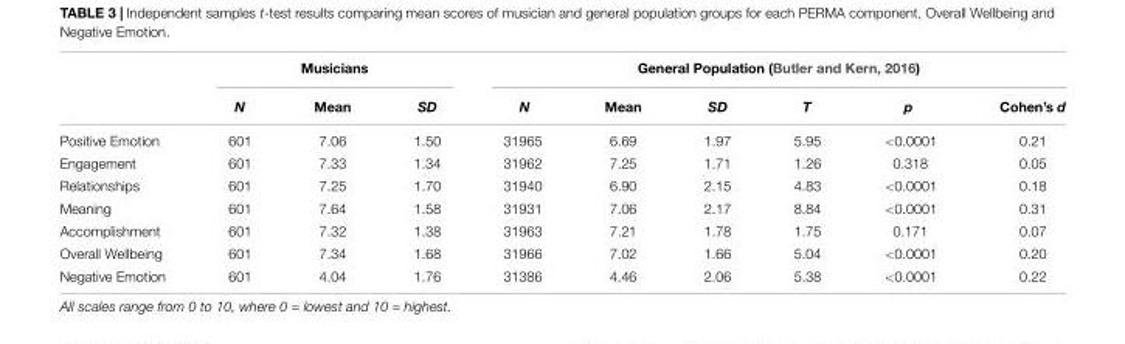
<table><thead><tr><td rowspan="2"></td><td colspan="3">Musicians</td><td colspan="6">General Population (Butler and Kern, 2016)</td></tr><tr><td>N</td><td>Mean</td><td>SD</td><td>N</td><td>Mean</td><td>SD</td><td>T</td><td>p</td><td>Cohen’s d</td></tr></thead><tbody><tr><td>Positive Emotion</td><td>601</td><td>7.06</td><td>1.50</td><td>31965</td><td>6.69</td><td>1.97</td><td>5.95</td><td>&lt;0.0001</td><td>0.21</td></tr><tr><td>Engagement</td><td>601</td><td>7.33</td><td>1.34</td><td>31962</td><td>7.25</td><td>1.71</td><td>1.26</td><td>0.318</td><td>0.05</td></tr><tr><td>Relationships</td><td>601</td><td>7.25</td><td>1.70</td><td>31940</td><td>6.90</td><td>2.15</td><td>4.83</td><td>&lt;0.0001</td><td>0.18</td></tr><tr><td>Meaning</td><td>601</td><td>7.64</td><td>1.58</td><td>31931</td><td>7.06</td><td>2.17</td><td>8.84</td><td>&lt;0.0001</td><td>0.31</td></tr><tr><td>Accomplishment</td><td>601</td><td>7.32</td><td>1.38</td><td>31963</td><td>7.21</td><td>1.78</td><td>1.75</td><td>0.171</td><td>0.07</td></tr><tr><td>Overall Wellbeing</td><td>601</td><td>7.34</td><td>1.68</td><td>31966</td><td>7.02</td><td>1.66</td><td>5.04</td><td>&lt;0.0001</td><td>0.20</td></tr><tr><td>Negative Emotion</td><td>601</td><td>4.04</td><td>1.76</td><td>31386</td><td>4.46</td><td>2.06</td><td>5.38</td><td>&lt;0.0001</td><td>0.22</td></tr></tbody></table>